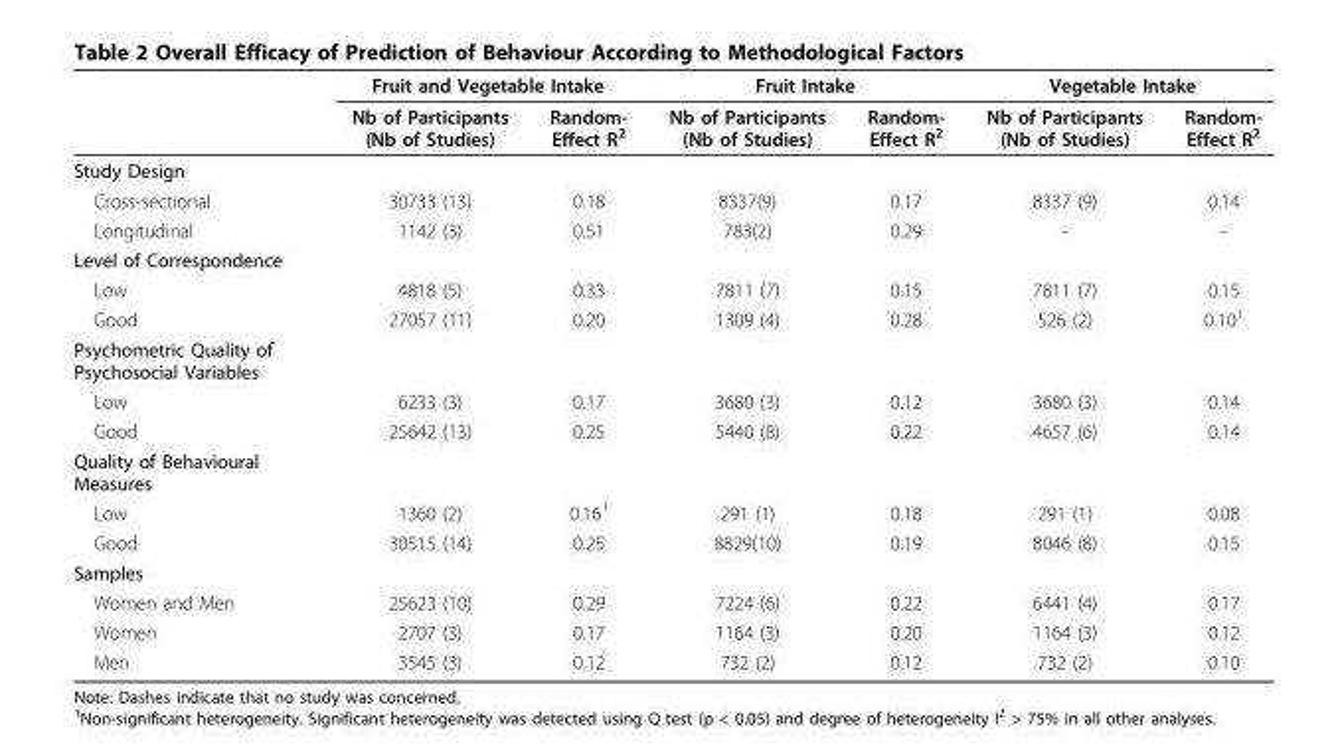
<table><thead><tr><td rowspan="2"></td><td colspan="2">Fruit and Vegetable Intake</td><td colspan="2">Fruit Intake</td><td colspan="2">Vegetable Intake</td></tr><tr><td>Nb of Participants (Nb of Studies)</td><td>Random- Effect R<sup>2</sup></td><td>Nb of Participants (Nb of Studies)</td><td>Random- Effect R<sup>2</sup></td><td>Nb of Participants (Nb of Studies)</td><td>Random- Effect R<sup>2</sup></td></tr></thead><tbody><tr><td colspan="7">Study Design</td></tr><tr><td>Cross-sectional</td><td>30733 (13)</td><td>0.18</td><td>8337(9)</td><td>0.17</td><td>8337 (9)</td><td>0.14</td></tr><tr><td>Longitudinal</td><td>1142 (3)</td><td>0.51</td><td>783(2)</td><td>0.29</td><td>-</td><td>-</td></tr><tr><td colspan="7">Level of Correspondence</td></tr><tr><td>Low</td><td>4818 (5)</td><td>0.33</td><td>7811 (7)</td><td>0.15</td><td>7811 (7)</td><td>0.15</td></tr><tr><td>Good</td><td>27057 (11)</td><td>0.20</td><td>1309 (4)</td><td>0.28</td><td>526 (2)</td><td>0.10<sup>1</sup></td></tr><tr><td colspan="7">Psychometric Quality of Psychosocial Variables</td></tr><tr><td>Low</td><td>6233 (3)</td><td>0.17</td><td>3680 (3)</td><td>0.12</td><td>3680 (3)</td><td>0.14</td></tr><tr><td>Good</td><td>25642 (13)</td><td>0.25</td><td>5440 (8)</td><td>0.22</td><td>4657 (6)</td><td>0.14</td></tr><tr><td colspan="7">Quality of Behavioural Measures</td></tr><tr><td>Low</td><td>1360 (2)</td><td>0.16<sup>1</sup></td><td>291 (1)</td><td>0.18</td><td>291 (1)</td><td>0.08</td></tr><tr><td>Good</td><td>30515 (14)</td><td>0.25</td><td>8829(10)</td><td>0.19</td><td>8046 (8)</td><td>0.15</td></tr><tr><td colspan="7">Samples</td></tr><tr><td>Women and Men</td><td>25623 (10)</td><td>0.29</td><td>7224 (6)</td><td>0.22</td><td>6441 (4)</td><td>0.17</td></tr><tr><td>Women</td><td>2707 (3)</td><td>0.17</td><td>1164 (3)</td><td>0.20</td><td>1164 (3)</td><td>0.12</td></tr><tr><td>Men</td><td>3545 (3)</td><td>0.12</td><td>732 (2)</td><td>0.12</td><td>732 (2)</td><td>0.10</td></tr></tbody></table>